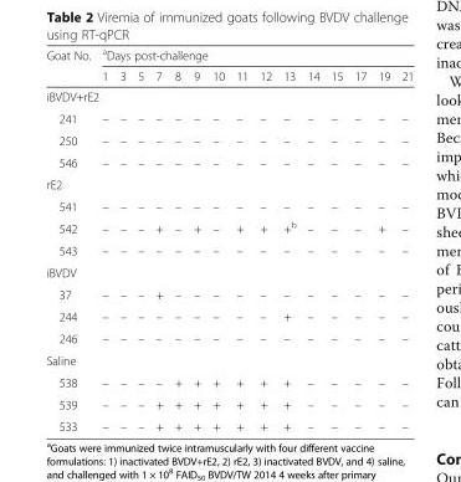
<table><thead><tr><td rowspan="2">Goat No.</td><td colspan="15"><sup>a</sup>Days post-challenge</td></tr><tr><td>1</td><td>3</td><td>5</td><td>7</td><td>8</td><td>9</td><td>10</td><td>11</td><td>12</td><td>13</td><td>14</td><td>15</td><td>17</td><td>19</td><td>21</td></tr></thead><tbody><tr><td colspan="16">iBVDV+rE2</td></tr><tr><td>241</td><td>–</td><td>–</td><td>–</td><td>–</td><td>–</td><td>–</td><td>–</td><td>–</td><td>–</td><td>–</td><td>–</td><td>–</td><td>–</td><td>–</td><td>–</td></tr><tr><td>250</td><td>–</td><td>–</td><td>–</td><td>–</td><td>–</td><td>–</td><td>–</td><td>–</td><td>–</td><td>–</td><td>–</td><td>–</td><td>–</td><td>–</td><td>–</td></tr><tr><td>546</td><td>–</td><td>–</td><td>–</td><td>–</td><td>–</td><td>–</td><td>–</td><td>–</td><td>–</td><td>–</td><td>–</td><td>–</td><td>–</td><td>–</td><td>–</td></tr><tr><td colspan="16">rE2</td></tr><tr><td>541</td><td>–</td><td>–</td><td>–</td><td>–</td><td>–</td><td>–</td><td>–</td><td>–</td><td>–</td><td>–</td><td>–</td><td>–</td><td>–</td><td>–</td><td>–</td></tr><tr><td>542</td><td>–</td><td>–</td><td>–</td><td>+</td><td>–</td><td>+</td><td>–</td><td>+</td><td>+</td><td>+<sup>b</sup></td><td>–</td><td>–</td><td>–</td><td>+</td><td>–</td></tr><tr><td>543</td><td>–</td><td>–</td><td>–</td><td>–</td><td>–</td><td>–</td><td>–</td><td>–</td><td>–</td><td>–</td><td>–</td><td>–</td><td>–</td><td>–</td><td>–</td></tr><tr><td colspan="16">iBVDV</td></tr><tr><td>37</td><td>–</td><td>–</td><td>–</td><td>+</td><td>–</td><td>–</td><td>–</td><td>–</td><td>–</td><td>–</td><td>–</td><td>–</td><td>–</td><td>–</td><td>–</td></tr><tr><td>244</td><td>–</td><td>–</td><td>–</td><td>–</td><td>–</td><td>–</td><td>–</td><td>–</td><td>–</td><td>+</td><td>–</td><td>–</td><td>–</td><td>–</td><td>–</td></tr><tr><td>246</td><td>–</td><td>–</td><td>–</td><td>–</td><td>–</td><td>–</td><td>–</td><td>–</td><td>–</td><td>–</td><td>–</td><td>–</td><td>–</td><td>–</td><td>–</td></tr><tr><td colspan="16">Saline</td></tr><tr><td>538</td><td>–</td><td>–</td><td>–</td><td>–</td><td>+</td><td>+</td><td>+</td><td>+</td><td>+</td><td>+</td><td>–</td><td>–</td><td>–</td><td>–</td><td>–</td></tr><tr><td>539</td><td>–</td><td>–</td><td>–</td><td>+</td><td>+</td><td>+</td><td>+</td><td>+</td><td>+</td><td>+</td><td>–</td><td>–</td><td>–</td><td>–</td><td>–</td></tr><tr><td>533</td><td>–</td><td>–</td><td>–</td><td>+</td><td>+</td><td>+</td><td>+</td><td>+</td><td>+</td><td>+</td><td>–</td><td>–</td><td>–</td><td>–</td><td>–</td></tr></tbody></table>